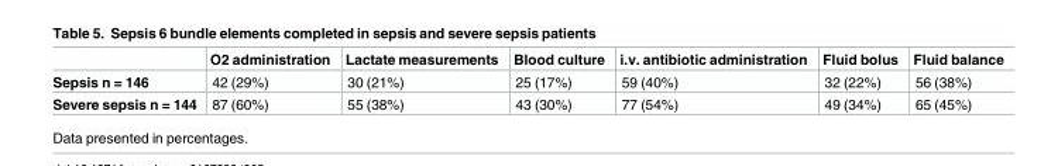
<table><thead><tr><td></td><td>O2 administration</td><td>Lactate measurements</td><td>Blood culture</td><td>i.v. antibiotic administration</td><td>Fluid bolus</td><td>Fluid balance</td></tr></thead><tbody><tr><td>Sepsis n = 146</td><td>42 (29%)</td><td>30 (21%)</td><td>25 (17%)</td><td>59 (40%)</td><td>32 (22%)</td><td>56 (38%)</td></tr><tr><td>Severe sepsis n = 144</td><td>87 (60%)</td><td>55 (38%)</td><td>43 (30%)</td><td>77 (54%)</td><td>49 (34%)</td><td>65 (45%)</td></tr></tbody></table>